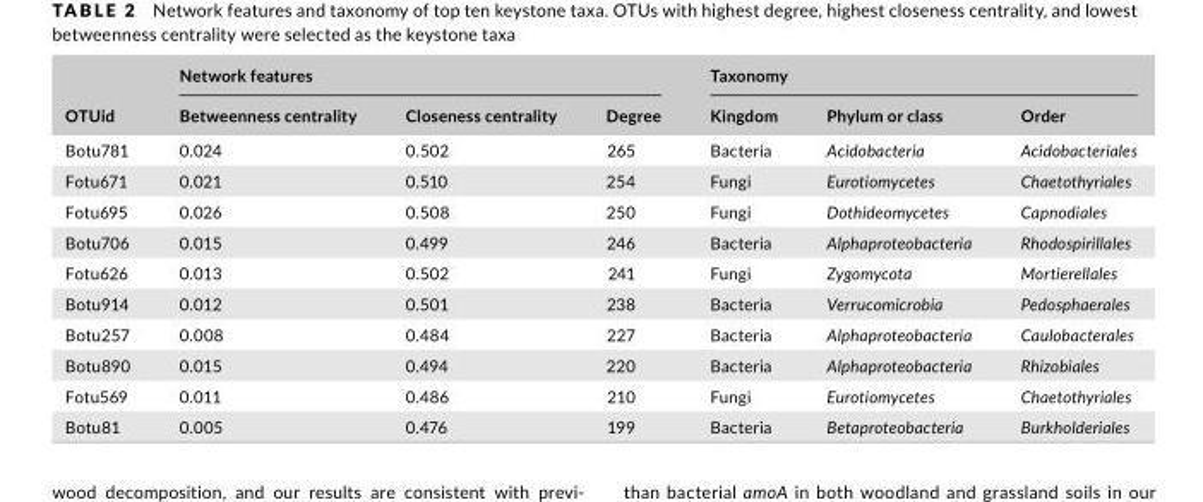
<table><thead><tr><td rowspan="2">OTUid</td><td colspan="3">Network features</td><td colspan="3">Taxonomy</td></tr><tr><td>Betweenness centrality</td><td>Closeness centrality</td><td>Degree</td><td>Kingdom</td><td>Phylum or class</td><td>Order</td></tr></thead><tbody><tr><td>Botu781</td><td>0.024</td><td>0.502</td><td>265</td><td>Bacteria</td><td>Acidobacteria</td><td>Acidobacteriales</td></tr><tr><td>Fotu671</td><td>0.021</td><td>0.510</td><td>254</td><td>Fungi</td><td>Eurotiomycetes</td><td>Chaetothyriales</td></tr><tr><td>Fotu695</td><td>0.026</td><td>0.508</td><td>250</td><td>Fungi</td><td>Dothideomycetes</td><td>Capnodiales</td></tr><tr><td>Botu706</td><td>0.015</td><td>0.499</td><td>246</td><td>Bacteria</td><td>Alphaproteobacteria</td><td>Rhodospirillales</td></tr><tr><td>Fotu626</td><td>0.013</td><td>0.502</td><td>241</td><td>Fungi</td><td>Zygomycota</td><td>Mortierellales</td></tr><tr><td>Botu914</td><td>0.012</td><td>0.501</td><td>238</td><td>Bacteria</td><td>Verrucomicrobia</td><td>Pedosphaerales</td></tr><tr><td>Botu257</td><td>0.008</td><td>0.484</td><td>227</td><td>Bacteria</td><td>Alphaproteobacteria</td><td>Caulobacterales</td></tr><tr><td>Botu890</td><td>0.015</td><td>0.494</td><td>220</td><td>Bacteria</td><td>Alphaproteobacteria</td><td>Rhizobiales</td></tr><tr><td>Fotu569</td><td>0.011</td><td>0.486</td><td>210</td><td>Fungi</td><td>Eurotiomycetes</td><td>Chaetothyriales</td></tr><tr><td>Botu81</td><td>0.005</td><td>0.476</td><td>199</td><td>Bacteria</td><td>Betaproteobacteria</td><td>Burkholderiales</td></tr></tbody></table>